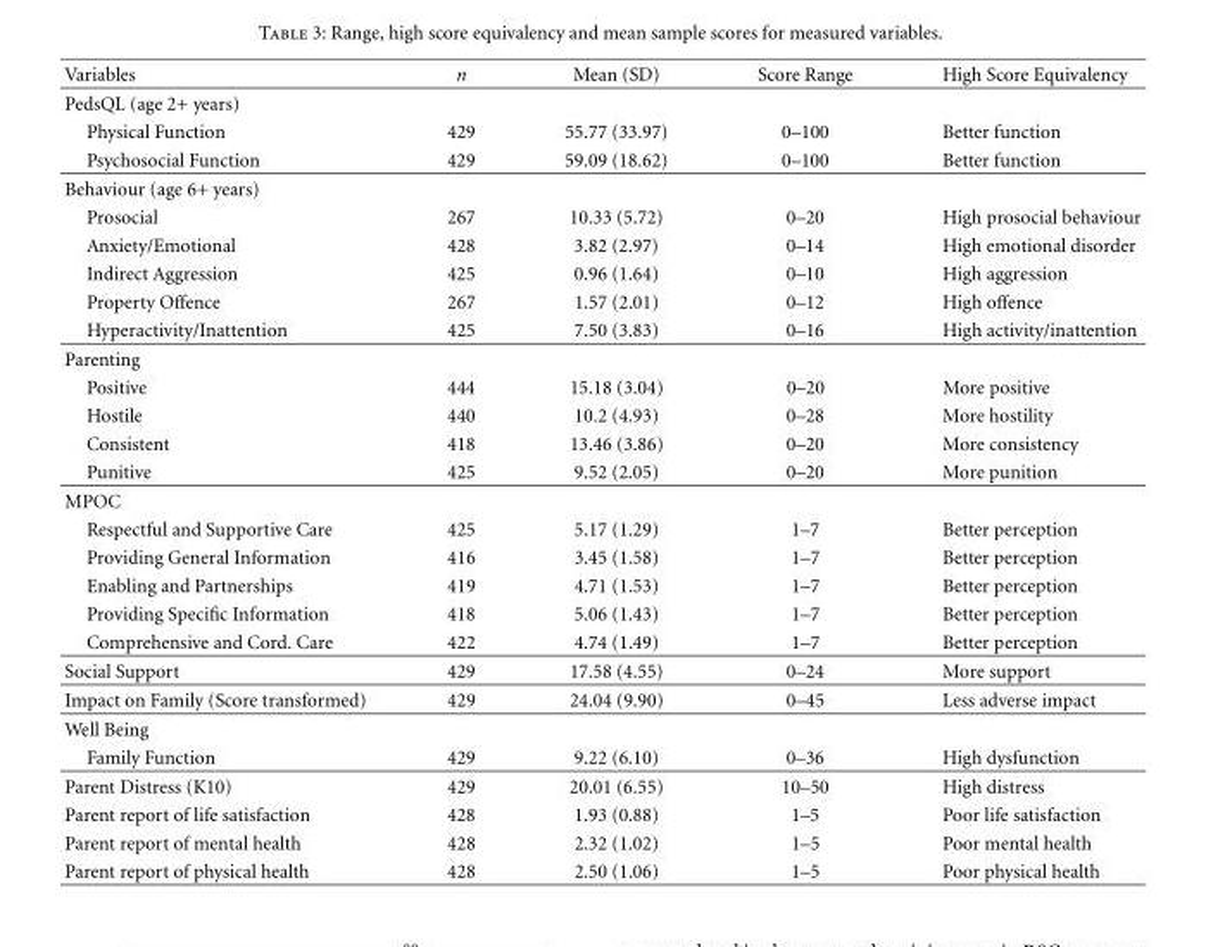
<table><thead><tr><td>Variables</td><td>n</td><td>Mean (SD)</td><td>Score Range</td><td>High Score Equivalency</td></tr></thead><tbody><tr><td colspan="5">PedsQL (age 2+ years)</td></tr><tr><td>Physical Function</td><td>429</td><td>55.77 (33.97)</td><td>0–100</td><td>Better function</td></tr><tr><td>Psychosocial Function</td><td>429</td><td>59.09 (18.62)</td><td>0–100</td><td>Better function</td></tr><tr><td colspan="5">Behaviour (age 6+ years)</td></tr><tr><td>Prosocial</td><td>267</td><td>10.33 (5.72)</td><td>0–20</td><td>High prosocial behaviour</td></tr><tr><td>Anxiety/Emotional</td><td>428</td><td>3.82 (2.97)</td><td>0–14</td><td>High emotional disorder</td></tr><tr><td>Indirect Aggression</td><td>425</td><td>0.96 (1.64)</td><td>0–10</td><td>High aggression</td></tr><tr><td>Property Offence</td><td>267</td><td>1.57 (2.01)</td><td>0–12</td><td>High offence</td></tr><tr><td>Hyperactivity/Inattention</td><td>425</td><td>7.50 (3.83)</td><td>0–16</td><td>High activity/inattention</td></tr><tr><td colspan="5">Parenting</td></tr><tr><td>Positive</td><td>444</td><td>15.18 (3.04)</td><td>0–20</td><td>More positive</td></tr><tr><td>Hostile</td><td>440</td><td>10.2 (4.93)</td><td>0–28</td><td>More hostility</td></tr><tr><td>Consistent</td><td>418</td><td>13.46 (3.86)</td><td>0–20</td><td>More consistency</td></tr><tr><td>Punitive</td><td>425</td><td>9.52 (2.05)</td><td>0–20</td><td>More punition</td></tr><tr><td colspan="5">MPOC</td></tr><tr><td>Respectful and Supportive Care</td><td>425</td><td>5.17 (1.29)</td><td>1–7</td><td>Better perception</td></tr><tr><td>Providing General Information</td><td>416</td><td>3.45 (1.58)</td><td>1–7</td><td>Better perception</td></tr><tr><td>Enabling and Partnerships</td><td>419</td><td>4.71 (1.53)</td><td>1–7</td><td>Better perception</td></tr><tr><td>Providing Specific Information</td><td>418</td><td>5.06 (1.43)</td><td>1–7</td><td>Better perception</td></tr><tr><td>Comprehensive and Cord. Care</td><td>422</td><td>4.74 (1.49)</td><td>1–7</td><td>Better perception</td></tr><tr><td>Social Support</td><td>429</td><td>17.58 (4.55)</td><td>0–24</td><td>More support</td></tr><tr><td>Impact on Family (Score transformed)</td><td>429</td><td>24.04 (9.90)</td><td>0–45</td><td>Less adverse impact</td></tr><tr><td colspan="5">Well Being</td></tr><tr><td>Family Function</td><td>429</td><td>9.22 (6.10)</td><td>0–36</td><td>High dysfunction</td></tr><tr><td>Parent Distress (K10)</td><td>429</td><td>20.01 (6.55)</td><td>10–50</td><td>High distress</td></tr><tr><td>Parent report of life satisfaction</td><td>428</td><td>1.93 (0.88)</td><td>1–5</td><td>Poor life satisfaction</td></tr><tr><td>Parent report of mental health</td><td>428</td><td>2.32 (1.02)</td><td>1–5</td><td>Poor mental health</td></tr><tr><td>Parent report of physical health</td><td>428</td><td>2.50 (1.06)</td><td>1–5</td><td>Poor physical health</td></tr></tbody></table>